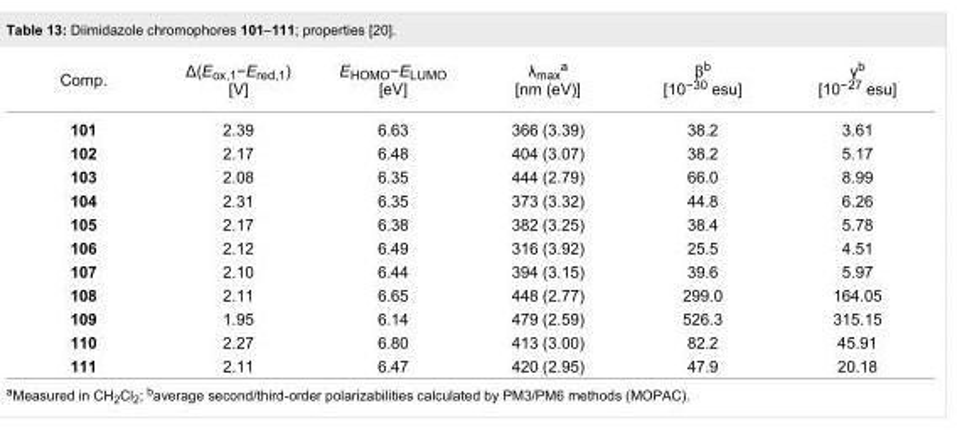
<table><tbody><tr><td>Comp.</td><td>Δ(E<sub>ox,1</sub>−E<sub>red,1</sub>) [V]</td><td>E<sub>HOMO</sub>−E<sub>LUMO</sub> [eV]</td><td>λ<sub>max</sub><sup>a</sup> [nm (eV)]</td><td>β<sup>b</sup> [10<sup>−30</sup> esu]</td><td>γ<sup>b</sup> [10<sup>−27</sup> esu]</td></tr><tr><td>101</td><td>2.39</td><td>6.63</td><td>366 (3.39)</td><td>38.2</td><td>3.61</td></tr><tr><td>102</td><td>2.17</td><td>6.48</td><td>404 (3.07)</td><td>38.2</td><td>5.17</td></tr><tr><td>103</td><td>2.08</td><td>6.35</td><td>444 (2.79)</td><td>66.0</td><td>8.99</td></tr><tr><td>104</td><td>2.31</td><td>6.35</td><td>373 (3.32)</td><td>44.8</td><td>6.26</td></tr><tr><td>105</td><td>2.17</td><td>6.38</td><td>382 (3.25)</td><td>38.4</td><td>5.78</td></tr><tr><td>106</td><td>2.12</td><td>6.49</td><td>316 (3.92)</td><td>25.5</td><td>4.51</td></tr><tr><td>107</td><td>2.10</td><td>6.44</td><td>394 (3.15)</td><td>39.6</td><td>5.97</td></tr><tr><td>108</td><td>2.11</td><td>6.65</td><td>448 (2.77)</td><td>299.0</td><td>164.05</td></tr><tr><td>109</td><td>1.95</td><td>6.14</td><td>479 (2.59)</td><td>526.3</td><td>315.15</td></tr><tr><td>110</td><td>2.27</td><td>6.80</td><td>413 (3.00)</td><td>82.2</td><td>45.91</td></tr><tr><td>111</td><td>2.11</td><td>6.47</td><td>420 (2.95)</td><td>47.9</td><td>20.18</td></tr></tbody></table>